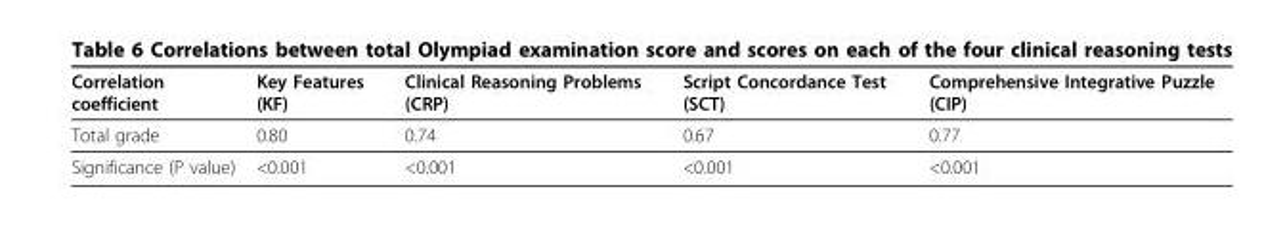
<table><thead><tr><td>Correlation coefficient</td><td>Key Features (KF)</td><td>Clinical Reasoning Problems (CRP)</td><td>Script Concordance Test (SCT)</td><td>Comprehensive Integrative Puzzle (CIP)</td></tr></thead><tbody><tr><td>Total grade</td><td>0.80</td><td>0.74</td><td>0.67</td><td>0.77</td></tr><tr><td>Significance (P value)</td><td>&lt;0.001</td><td>&lt;0.001</td><td>&lt;0.001</td><td>&lt;0.001</td></tr></tbody></table>